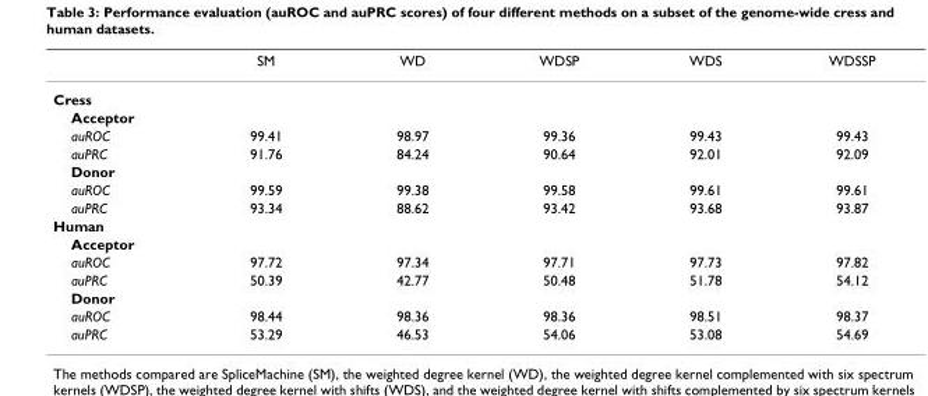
<table><thead><tr><td></td><td>SM</td><td>WD</td><td>WDSP</td><td>WDS</td><td>WDSSP</td></tr></thead><tbody><tr><td colspan="6">Cress</td></tr><tr><td colspan="6">Acceptor</td></tr><tr><td>auROC</td><td>99.41</td><td>98.97</td><td>99.36</td><td>99.43</td><td>99.43</td></tr><tr><td>auPRC</td><td>91.76</td><td>84.24</td><td>90.64</td><td>92.01</td><td>92.09</td></tr><tr><td colspan="6">Donor</td></tr><tr><td>auROC</td><td>99.59</td><td>99.38</td><td>99.58</td><td>99.61</td><td>99.61</td></tr><tr><td>auPRC</td><td>93.34</td><td>88.62</td><td>93.42</td><td>93.68</td><td>93.87</td></tr><tr><td colspan="6">Human</td></tr><tr><td colspan="6">Acceptor</td></tr><tr><td>auROC</td><td>97.72</td><td>97.34</td><td>97.71</td><td>97.73</td><td>97.82</td></tr><tr><td>auPRC</td><td>50.39</td><td>42.77</td><td>50.48</td><td>51.78</td><td>54.12</td></tr><tr><td colspan="6">Donor</td></tr><tr><td>auROC</td><td>98.44</td><td>98.36</td><td>98.36</td><td>98.51</td><td>98.37</td></tr><tr><td>auPRC</td><td>53.29</td><td>46.53</td><td>54.06</td><td>53.08</td><td>54.69</td></tr></tbody></table>